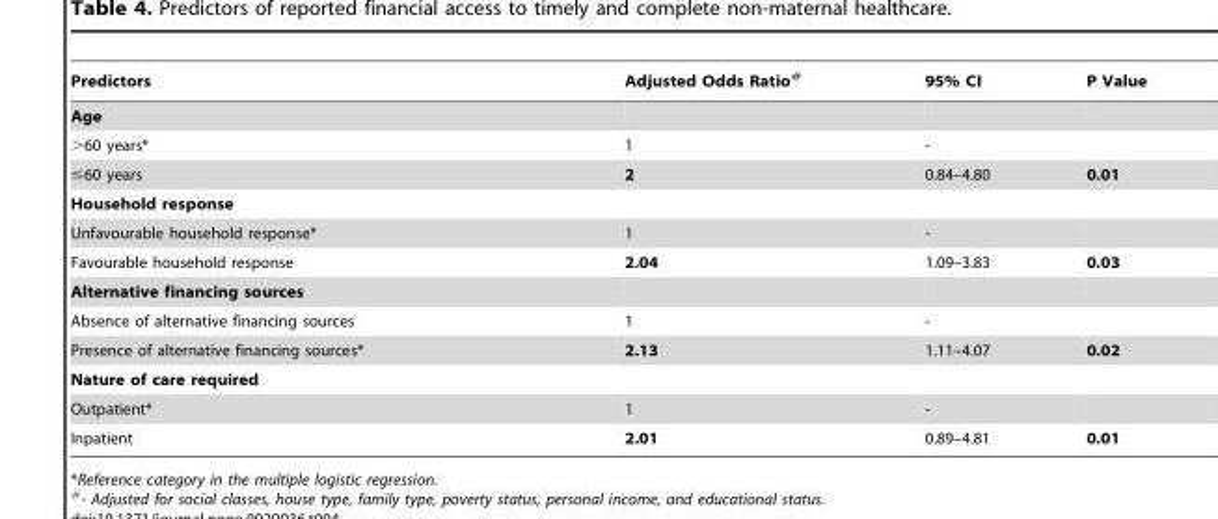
<table><thead><tr><td>Predictors</td><td>Adjusted Odds Ratio#</td><td>95% CI</td><td>P Value</td></tr></thead><tbody><tr><td colspan="4">Age</td></tr><tr><td>&gt;60 years*</td><td>1</td><td>-</td><td></td></tr><tr><td>≤60 years</td><td>2</td><td>0.84–4.80</td><td>0.01</td></tr><tr><td colspan="4">Household response</td></tr><tr><td>Unfavourable household response*</td><td>1</td><td>-</td><td></td></tr><tr><td>Favourable household response</td><td>2.04</td><td>1.09–3.83</td><td>0.03</td></tr><tr><td colspan="4">Alternative financing sources</td></tr><tr><td>Absence of alternative financing sources</td><td>1</td><td>-</td><td></td></tr><tr><td>Presence of alternative financing sources*</td><td>2.13</td><td>1.11–4.07</td><td>0.02</td></tr><tr><td colspan="4">Nature of care required</td></tr><tr><td>Outpatient*</td><td>1</td><td>-</td><td></td></tr><tr><td>Inpatient</td><td>2.01</td><td>0.89–4.81</td><td>0.01</td></tr></tbody></table>